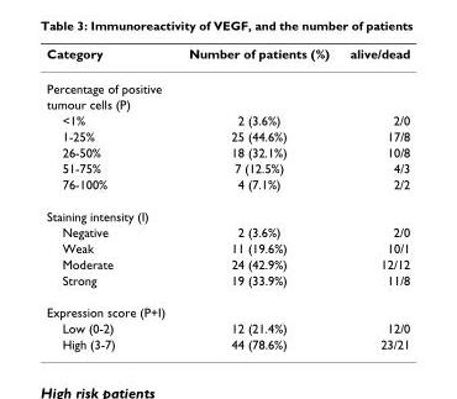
<table><thead><tr><td>Category</td><td>Number of patients (%)</td><td>alive/dead</td></tr></thead><tbody><tr><td colspan="3">Percentage of positive</td></tr><tr><td colspan="3">tumour cells (P)</td></tr><tr><td>&lt;1%</td><td>2 (3.6%)</td><td>2/0</td></tr><tr><td>1-25%</td><td>25 (44.6%)</td><td>17/8</td></tr><tr><td>26-50%</td><td>18 (32.1%)</td><td>10/8</td></tr><tr><td>51-75%</td><td>7 (12.5%)</td><td>4/3</td></tr><tr><td>76-100%</td><td>4 (7.1%)</td><td>2/2</td></tr><tr><td colspan="3">Staining intensity (I)</td></tr><tr><td>Negative</td><td>2 (3.6%)</td><td>2/0</td></tr><tr><td>Weak</td><td>11 (19.6%)</td><td>10/1</td></tr><tr><td>Moderate</td><td>24 (42.9%)</td><td>12/12</td></tr><tr><td>Strong</td><td>19 (33.9%)</td><td>11/8</td></tr><tr><td colspan="3">Expression score (P+I)</td></tr><tr><td>Low (0-2)</td><td>12 (21.4%)</td><td>12/0</td></tr><tr><td>High (3-7)</td><td>44 (78.6%)</td><td>23/21</td></tr></tbody></table>